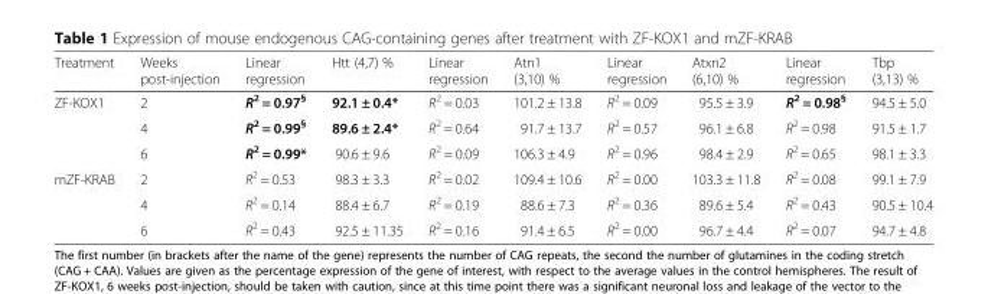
<table><thead><tr><td>Treatment</td><td>Weeks post-injection</td><td>Linear regression</td><td>Htt (4,7) %</td><td>Linear regression</td><td>Atn1 (3,10) %</td><td>Linear regression</td><td>Atxn2 (6,10) %</td><td>Linear regression</td><td>Tbp (3,13) %</td></tr></thead><tbody><tr><td rowspan="3">ZF-KOX1</td><td>2</td><td>R<sup>2</sup> = 0.97<sup>§</sup></td><td>92.1 ± 0.4*</td><td>R<sup>2</sup> = 0.03</td><td>101.2 ± 13.8</td><td>R<sup>2</sup> = 0.09</td><td>95.5 ± 3.9</td><td>R<sup>2</sup> = 0.98<sup>§</sup></td><td>94.5 ± 5.0</td></tr><tr><td>4</td><td>R<sup>2</sup> = 0.99<sup>§</sup></td><td>89.6 ± 2.4*</td><td>R<sup>2</sup> = 0.64</td><td>91.7 ± 13.7</td><td>R<sup>2</sup> = 0.57</td><td>96.1 ± 6.8</td><td>R<sup>2</sup> = 0.98</td><td>91.5 ± 1.7</td></tr><tr><td>6</td><td>R<sup>2</sup> = 0.99*</td><td>90.6 ± 9.6</td><td>R<sup>2</sup> = 0.09</td><td>106.3 ± 4.9</td><td>R<sup>2</sup> = 0.96</td><td>98.4 ± 2.9</td><td>R<sup>2</sup> = 0.65</td><td>98.1 ± 3.3</td></tr><tr><td rowspan="3">mZF-KRAB</td><td>2</td><td>R<sup>2</sup> = 0.53</td><td>98.3 ± 3.3</td><td>R<sup>2</sup> = 0.02</td><td>109.4 ± 10.6</td><td>R<sup>2</sup> = 0.00</td><td>103.3 ± 11.8</td><td>R<sup>2</sup> = 0.08</td><td>99.1 ± 7.9</td></tr><tr><td>4</td><td>R<sup>2</sup> = 0.14</td><td>88.4 ± 6.7</td><td>R<sup>2</sup> = 0.19</td><td>88.6 ± 7.3</td><td>R<sup>2</sup> = 0.36</td><td>89.6 ± 5.4</td><td>R<sup>2</sup> = 0.43</td><td>90.5 ± 10.4</td></tr><tr><td>6</td><td>R<sup>2</sup> = 0.43</td><td>92.5 ± 11.35</td><td>R<sup>2</sup> = 0.16</td><td>91.4 ± 6.5</td><td>R<sup>2</sup> = 0.00</td><td>96.7 ± 4.4</td><td>R<sup>2</sup> = 0.07</td><td>94.7 ± 4.8</td></tr></tbody></table>